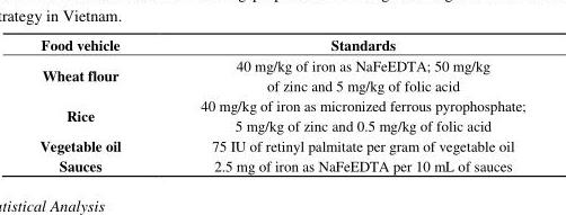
<table><thead><tr><td>Food vehicle</td><td>Standards</td></tr></thead><tbody><tr><td>Wheat flour</td><td>40 mg/kg of iron as NaFeEDTA; 50 mg/kg of zinc and 5 mg/kg of folic acid</td></tr><tr><td>Rice</td><td>40 mg/kg of iron as micronized ferrous pyrophosphate; 5 mg/kg of zinc and 0.5 mg/kg of folic acid</td></tr><tr><td>Vegetable oil</td><td>75 IU of retinyl palmitate per gram of vegetable oil</td></tr><tr><td>Sauces</td><td>2.5 mg of iron as NaFeEDTA per 10 mL of sauces</td></tr></tbody></table>